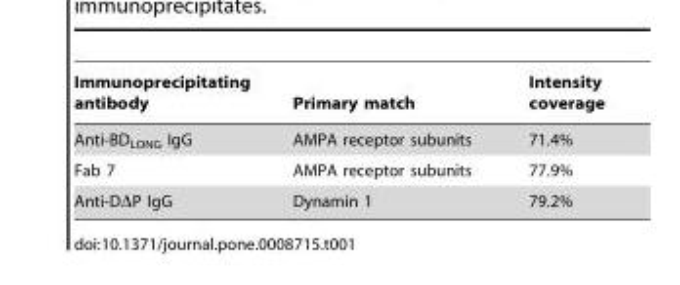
<table><thead><tr><td>Immunoprecipitating antibody</td><td>Primary match</td><td>Intensity coverage</td></tr></thead><tbody><tr><td>Anti-BD<sub>LONG</sub> IgG</td><td>AMPA receptor subunits</td><td>71.4%</td></tr><tr><td>Fab 7</td><td>AMPA receptor subunits</td><td>77.9%</td></tr><tr><td>Anti-DΔP IgG</td><td>Dynamin 1</td><td>79.2%</td></tr></tbody></table>